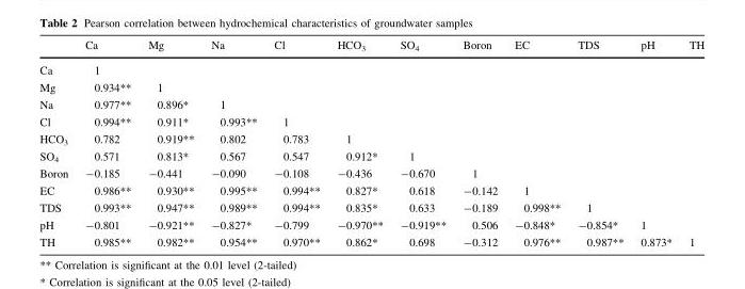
<table><thead><tr><td></td><td>Ca</td><td>Mg</td><td>Na</td><td>Cl</td><td>HCO<sub>3</sub></td><td>SO<sub>4</sub></td><td>Boron</td><td>EC</td><td>TDS</td><td>pH</td><td>TH</td></tr></thead><tbody><tr><td>Ca</td><td>1</td><td></td><td></td><td></td><td></td><td></td><td></td><td></td><td></td><td></td><td></td></tr><tr><td>Mg</td><td>0.934**</td><td>1</td><td></td><td></td><td></td><td></td><td></td><td></td><td></td><td></td><td></td></tr><tr><td>Na</td><td>0.977**</td><td>0.896*</td><td>1</td><td></td><td></td><td></td><td></td><td></td><td></td><td></td><td></td></tr><tr><td>Cl</td><td>0.994**</td><td>0.911*</td><td>0.993**</td><td>1</td><td></td><td></td><td></td><td></td><td></td><td></td><td></td></tr><tr><td>HCO<sub>3</sub></td><td>0.782</td><td>0.919**</td><td>0.802</td><td>0.783</td><td>1</td><td></td><td></td><td></td><td></td><td></td><td></td></tr><tr><td>SO<sub>4</sub></td><td>0.571</td><td>0.813*</td><td>0.567</td><td>0.547</td><td>0.912*</td><td>1</td><td></td><td></td><td></td><td></td><td></td></tr><tr><td>Boron</td><td>-0.185</td><td>-0.441</td><td>-0.090</td><td>-0.108</td><td>-0.436</td><td>-0.670</td><td>1</td><td></td><td></td><td></td><td></td></tr><tr><td>EC</td><td>0.986**</td><td>0.930**</td><td>0.995**</td><td>0.994**</td><td>0.827*</td><td>0.618</td><td>-0.142</td><td>1</td><td></td><td></td><td></td></tr><tr><td>TDS</td><td>0.993**</td><td>0.947**</td><td>0.989**</td><td>0.994**</td><td>0.835*</td><td>0.633</td><td>-0.189</td><td>0.998**</td><td>1</td><td></td><td></td></tr><tr><td>pH</td><td>-0.801</td><td>-0.921**</td><td>-0.827*</td><td>-0.799</td><td>-0.970**</td><td>-0.919**</td><td>0.506</td><td>-0.848*</td><td>-0.854*</td><td>1</td><td></td></tr><tr><td>TH</td><td>0.985**</td><td>0.982**</td><td>0.954**</td><td>0.970**</td><td>0.862*</td><td>0.698</td><td>-0.312</td><td>0.976**</td><td>0.987**</td><td>0.873*</td><td>1</td></tr></tbody></table>